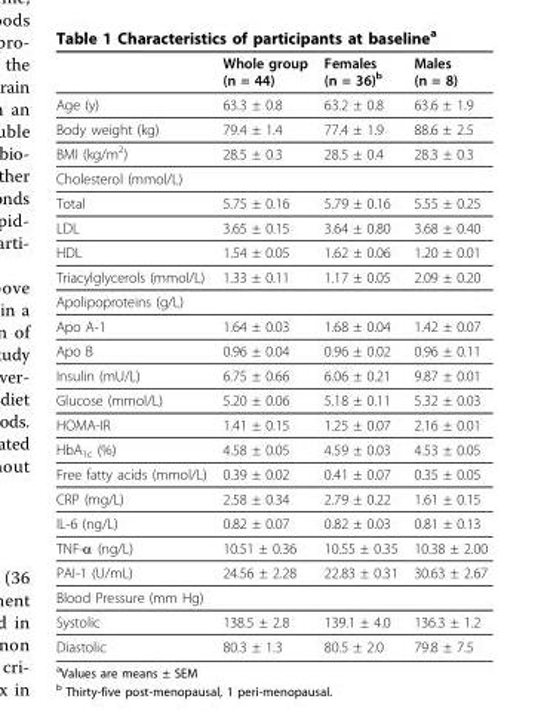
<table><thead><tr><td></td><td>Whole group (n = 44)</td><td>Females (n = 36)b</td><td>Males (n = 8)</td></tr></thead><tbody><tr><td>Age (y)</td><td>63.3 ± 0.8</td><td>63.2 ± 0.8</td><td>63.6 ± 1.9</td></tr><tr><td>Body weight (kg)</td><td>79.4 ± 1.4</td><td>77.4 ± 1.9</td><td>88.6 ± 2.5</td></tr><tr><td>BMI (kg/m2)</td><td>28.5 ± 0.3</td><td>28.5 ± 0.4</td><td>28.3 ± 0.3</td></tr><tr><td colspan="4">Cholesterol (mmol/L)</td></tr><tr><td>Total</td><td>5.75 ± 0.16</td><td>5.79 ± 0.16</td><td>5.55 ± 0.25</td></tr><tr><td>LDL</td><td>3.65 ± 0.15</td><td>3.64 ± 0.80</td><td>3.68 ± 0.40</td></tr><tr><td>HDL</td><td>1.54 ± 0.05</td><td>1.62 ± 0.06</td><td>1.20 ± 0.01</td></tr><tr><td>Triacylglycerols (mmol/L)</td><td>1.33 ± 0.11</td><td>1.17 ± 0.05</td><td>2.09 ± 0.20</td></tr><tr><td colspan="4">Apolipoproteins (g/L)</td></tr><tr><td>Apo A-1</td><td>1.64 ± 0.03</td><td>1.68 ± 0.04</td><td>1.42 ± 0.07</td></tr><tr><td>Apo B</td><td>0.96 ± 0.04</td><td>0.96 ± 0.02</td><td>0.96 ± 0.11</td></tr><tr><td>Insulin (mU/L)</td><td>6.75 ± 0.66</td><td>6.06 ± 0.21</td><td>9.87 ± 0.01</td></tr><tr><td>Glucose (mmol/L)</td><td>5.20 ± 0.06</td><td>5.18 ± 0.11</td><td>5.32 ± 0.03</td></tr><tr><td>HOMA-IR</td><td>1.41 ± 0.15</td><td>1.25 ± 0.07</td><td>2.16 ± 0.01</td></tr><tr><td>HbA1c (%)</td><td>4.58 ± 0.05</td><td>4.59 ± 0.03</td><td>4.53 ± 0.05</td></tr><tr><td>Free fatty acids (mmol/L)</td><td>0.39 ± 0.02</td><td>0.41 ± 0.07</td><td>0.35 ± 0.05</td></tr><tr><td>CRP (mg/L)</td><td>2.58 ± 0.34</td><td>2.79 ± 0.22</td><td>1.61 ± 0.15</td></tr><tr><td>IL-6 (ng/L)</td><td>0.82 ± 0.07</td><td>0.82 ± 0.03</td><td>0.81 ± 0.13</td></tr><tr><td>TNF-α (ng/L)</td><td>10.51 ± 0.36</td><td>10.55 ± 0.35</td><td>10.38 ± 2.00</td></tr><tr><td>PAI-1 (U/mL)</td><td>24.56 ± 2.28</td><td>22.83 ± 0.31</td><td>30.63 ± 2.67</td></tr><tr><td colspan="4">Blood Pressure (mm Hg)</td></tr><tr><td>Systolic</td><td>138.5 ± 2.8</td><td>139.1 ± 4.0</td><td>136.3 ± 1.2</td></tr><tr><td>Diastolic</td><td>80.3 ± 1.3</td><td>80.5 ± 2.0</td><td>79.8 ± 7.5</td></tr></tbody></table>